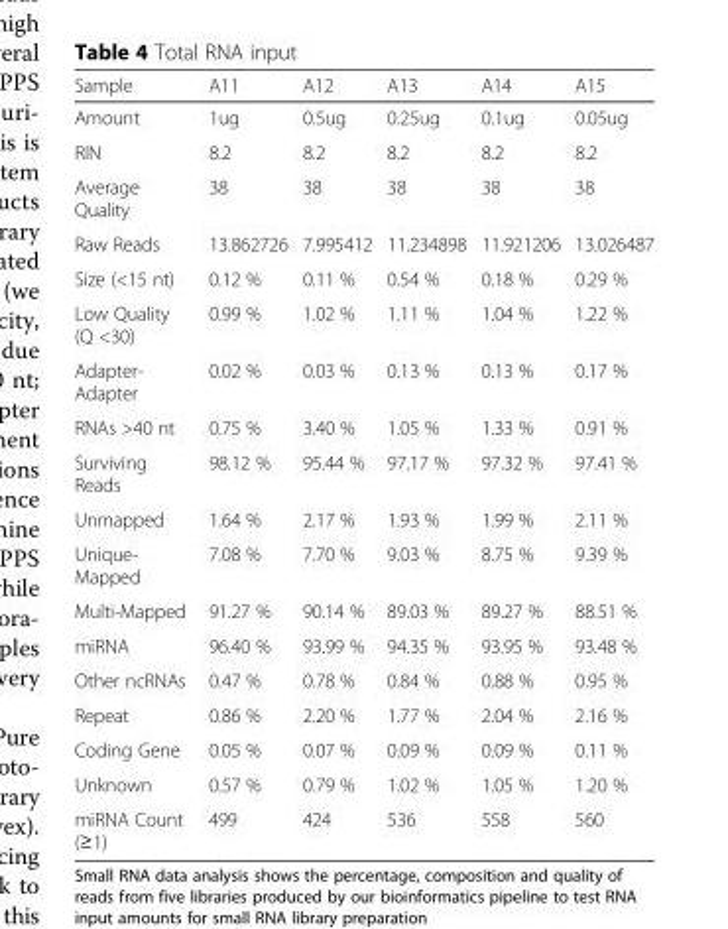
<table><thead><tr><td>Sample</td><td>A11</td><td>A12</td><td>A13</td><td>A14</td><td>A15</td></tr></thead><tbody><tr><td>Amount</td><td>1ug</td><td>0.5ug</td><td>0.25ug</td><td>0.1ug</td><td>0.05ug</td></tr><tr><td>RIN</td><td>8.2</td><td>8.2</td><td>8.2</td><td>8.2</td><td>8.2</td></tr><tr><td>Average Quality</td><td>38</td><td>38</td><td>38</td><td>38</td><td>38</td></tr><tr><td>Raw Reads</td><td>13.862726</td><td>7.995412</td><td>11.234898</td><td>11.921206</td><td>13.026487</td></tr><tr><td>Size (&lt;15 nt)</td><td>0.12 %</td><td>0.11 %</td><td>0.54 %</td><td>0.18 %</td><td>0.29 %</td></tr><tr><td>Low Quality (Q &lt;30)</td><td>0.99 %</td><td>1.02 %</td><td>1.11 %</td><td>1.04 %</td><td>1.22 %</td></tr><tr><td>Adapter- Adapter</td><td>0.02 %</td><td>0.03 %</td><td>0.13 %</td><td>0.13 %</td><td>0.17 %</td></tr><tr><td>RNAs &gt;40 nt</td><td>0.75 %</td><td>3.40 %</td><td>1.05 %</td><td>1.33 %</td><td>0.91 %</td></tr><tr><td>Surviving Reads</td><td>98.12 %</td><td>95.44 %</td><td>97.17 %</td><td>97.32 %</td><td>97.41 %</td></tr><tr><td>Unmapped</td><td>1.64 %</td><td>2.17 %</td><td>1.93 %</td><td>1.99 %</td><td>2.11 %</td></tr><tr><td>Unique- Mapped</td><td>7.08 %</td><td>7.70 %</td><td>9.03 %</td><td>8.75 %</td><td>9.39 %</td></tr><tr><td>Multi-Mapped</td><td>91.27 %</td><td>90.14 %</td><td>89.03 %</td><td>89.27 %</td><td>88.51 %</td></tr><tr><td>miRNA</td><td>96.40 %</td><td>93.99 %</td><td>94.35 %</td><td>93.95 %</td><td>93.48 %</td></tr><tr><td>Other ncRNAs</td><td>0.47 %</td><td>0.78 %</td><td>0.84 %</td><td>0.88 %</td><td>0.95 %</td></tr><tr><td>Repeat</td><td>0.86 %</td><td>2.20 %</td><td>1.77 %</td><td>2.04 %</td><td>2.16 %</td></tr><tr><td>Coding Gene</td><td>0.05 %</td><td>0.07 %</td><td>0.09 %</td><td>0.09 %</td><td>0.11 %</td></tr><tr><td>Unknown</td><td>0.57 %</td><td>0.79 %</td><td>1.02 %</td><td>1.05 %</td><td>1.20 %</td></tr><tr><td>miRNA Count (≥1)</td><td>499</td><td>424</td><td>536</td><td>558</td><td>560</td></tr></tbody></table>